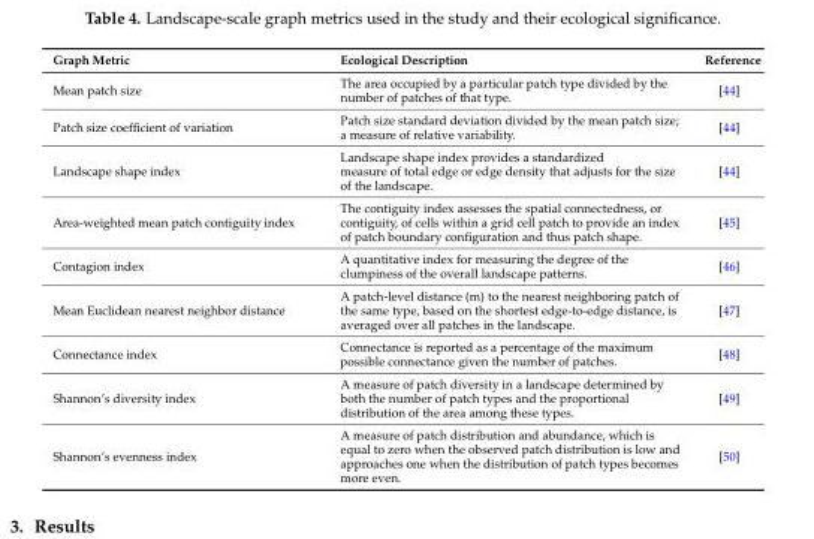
<table><thead><tr><td>Graph Metric</td><td>Ecological Description</td><td>Reference</td></tr></thead><tbody><tr><td>Mean patch size</td><td>The area occupied by a particular patch type divided by the number of patches of that type.</td><td>[44]</td></tr><tr><td>Patch size coefficient of variation</td><td>Patch size standard deviation divided by the mean patch size; a measure of relative variability.</td><td>[44]</td></tr><tr><td>Landscape shape index</td><td>Landscape shape index provides a standardized measure of total edge or edge density that adjusts for the size of the landscape.</td><td>[44]</td></tr><tr><td>Area-weighted mean patch contiguity index</td><td>The contiguity index assesses the spatial connectedness, or contiguity, of cells within a grid cell patch to provide an index of patch boundary configuration and thus patch shape.</td><td>[45]</td></tr><tr><td>Contagion index</td><td>A quantitative index for measuring the degree of the clumpiness of the overall landscape patterns.</td><td>[46]</td></tr><tr><td>Mean Euclidean nearest neighbor distance</td><td>A patch-level distance (m) to the nearest neighboring patch of the same type, based on the shortest edge-to-edge distance, is averaged over all patches in the landscape.</td><td>[47]</td></tr><tr><td>Connectance index</td><td>Connectance is reported as a percentage of the maximum possible connectance given the number of patches.</td><td>[48]</td></tr><tr><td>Shannon’s diversity index</td><td>A measure of patch diversity in a landscape determined by both the number of patch types and the proportional distribution of the area among these types.</td><td>[49]</td></tr><tr><td>Shannon’s evenness index</td><td>A measure of patch distribution and abundance, which is equal to zero when the observed patch distribution is low and approaches one when the distribution of patch types becomes more even.</td><td>[50]</td></tr></tbody></table>